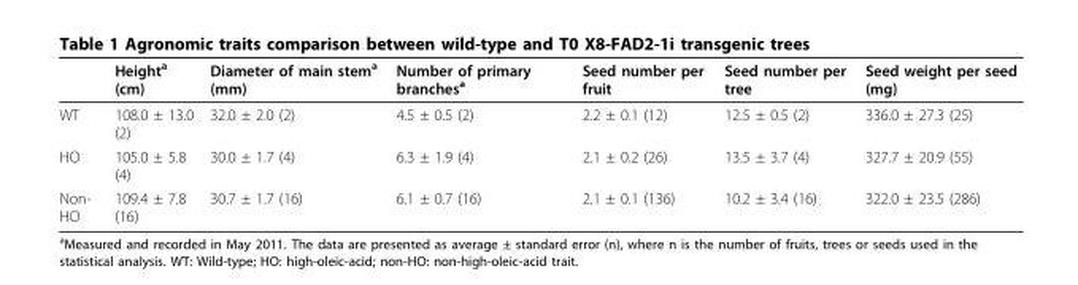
<table><thead><tr><td></td><td>Height<sup>a</sup> (cm)</td><td>Diameter of main stem<sup>a</sup> (mm)</td><td>Number of primary branches<sup>a</sup></td><td>Seed number per fruit</td><td>Seed number per tree</td><td>Seed weight per seed (mg)</td></tr></thead><tbody><tr><td>WT</td><td>108.0 ± 13.0 (2)</td><td>32.0 ± 2.0 (2)</td><td>4.5 ± 0.5 (2)</td><td>2.2 ± 0.1 (12)</td><td>12.5 ± 0.5 (2)</td><td>336.0 ± 27.3 (25)</td></tr><tr><td>HO</td><td>105.0 ± 5.8 (4)</td><td>30.0 ± 1.7 (4)</td><td>6.3 ± 1.9 (4)</td><td>2.1 ± 0.2 (26)</td><td>13.5 ± 3.7 (4)</td><td>327.7 ± 20.9 (55)</td></tr><tr><td>Non- HO</td><td>109.4 ± 7.8 (16)</td><td>30.7 ± 1.7 (16)</td><td>6.1 ± 0.7 (16)</td><td>2.1 ± 0.1 (136)</td><td>10.2 ± 3.4 (16)</td><td>322.0 ± 23.5 (286)</td></tr></tbody></table>